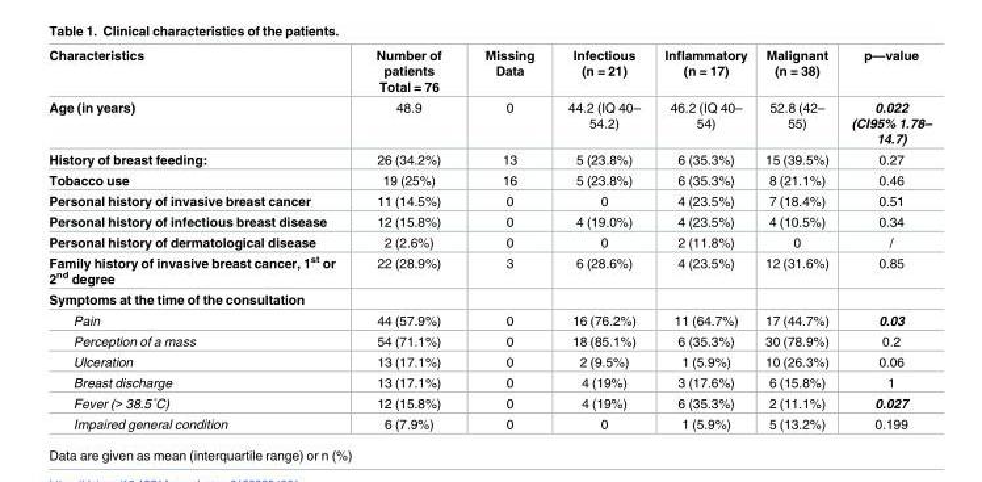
<table><thead><tr><td>Characteristics</td><td>Number of patients Total = 76</td><td>Missing Data</td><td>Infectious (n = 21)</td><td>Inflammatory (n = 17)</td><td>Malignant (n = 38)</td><td>p—value</td></tr></thead><tbody><tr><td>Age (in years)</td><td>48.9</td><td>0</td><td>44.2 (IQ 40– 54.2)</td><td>46.2 (IQ 40– 54)</td><td>52.8 (42– 55)</td><td>0.022 (CI95% 1.78– 14.7)</td></tr><tr><td>History of breast feeding:</td><td>26 (34.2%)</td><td>13</td><td>5 (23.8%)</td><td>6 (35.3%)</td><td>15 (39.5%)</td><td>0.27</td></tr><tr><td>Tobacco use</td><td>19 (25%)</td><td>16</td><td>5 (23.8%)</td><td>6 (35.3%)</td><td>8 (21.1%)</td><td>0.46</td></tr><tr><td>Personal history of invasive breast cancer</td><td>11 (14.5%)</td><td>0</td><td>0</td><td>4 (23.5%)</td><td>7 (18.4%)</td><td>0.51</td></tr><tr><td>Personal history of infectious breast disease</td><td>12 (15.8%)</td><td>0</td><td>4 (19.0%)</td><td>4 (23.5%)</td><td>4 (10.5%)</td><td>0.34</td></tr><tr><td>Personal history of dermatological disease</td><td>2 (2.6%)</td><td>0</td><td>0</td><td>2 (11.8%)</td><td>0</td><td>/</td></tr><tr><td>Family history of invasive breast cancer, 1<sup>st</sup> or 2<sup>nd</sup> degree</td><td>22 (28.9%)</td><td>3</td><td>6 (28.6%)</td><td>4 (23.5%)</td><td>12 (31.6%)</td><td>0.85</td></tr><tr><td colspan="7">Symptoms at the time of the consultation</td></tr><tr><td>Pain</td><td>44 (57.9%)</td><td>0</td><td>16 (76.2%)</td><td>11 (64.7%)</td><td>17 (44.7%)</td><td>0.03</td></tr><tr><td>Perception of a mass</td><td>54 (71.1%)</td><td>0</td><td>18 (85.1%)</td><td>6 (35.3%)</td><td>30 (78.9%)</td><td>0.2</td></tr><tr><td>Ulceration</td><td>13 (17.1%)</td><td>0</td><td>2 (9.5%)</td><td>1 (5.9%)</td><td>10 (26.3%)</td><td>0.06</td></tr><tr><td>Breast discharge</td><td>13 (17.1%)</td><td>0</td><td>4 (19%)</td><td>3 (17.6%)</td><td>6 (15.8%)</td><td>1</td></tr><tr><td>Fever (&gt; 38.5˚C)</td><td>12 (15.8%)</td><td>0</td><td>4 (19%)</td><td>6 (35.3%)</td><td>2 (11.1%)</td><td>0.027</td></tr><tr><td>Impaired general condition</td><td>6 (7.9%)</td><td>0</td><td>0</td><td>1 (5.9%)</td><td>5 (13.2%)</td><td>0.199</td></tr></tbody></table>